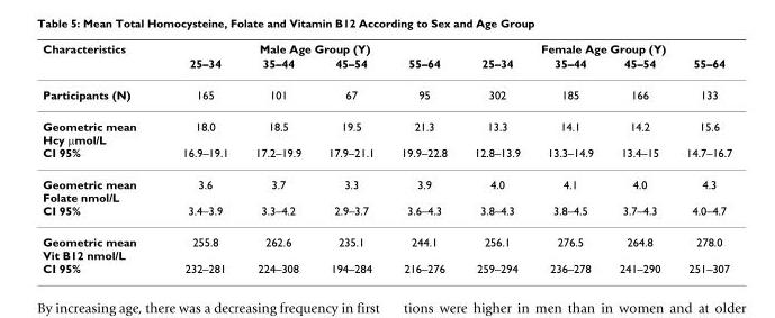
<table><thead><tr><td rowspan="2">Characteristics</td><td colspan="4">Male Age Group (Y)</td><td colspan="4">Female Age Group (Y)</td></tr><tr><td>25–34</td><td>35–44</td><td>45–54</td><td>55–64</td><td>25–34</td><td>35–44</td><td>45–54</td><td>55–64</td></tr></thead><tbody><tr><td>Participants (N)</td><td>165</td><td>101</td><td>67</td><td>95</td><td>302</td><td>185</td><td>166</td><td>133</td></tr><tr><td>Geometric mean Hcy µmol/L CI 95%</td><td>18.0 16.9–19.1</td><td>18.5 17.2–19.9</td><td>19.5 17.9–21.1</td><td>21.3 19.9–22.8</td><td>13.3 12.8–13.9</td><td>14.1 13.3–14.9</td><td>14.2 13.4–15</td><td>15.6 14.7–16.7</td></tr><tr><td>Geometric mean Folate nmol/L CI 95%</td><td>3.6 3.4–3.9</td><td>3.7 3.3–4.2</td><td>3.3 2.9–3.7</td><td>3.9 3.6–4.3</td><td>4.0 3.8–4.3</td><td>4.1 3.8–4.5</td><td>4.0 3.7–4.3</td><td>4.3 4.0–4.7</td></tr><tr><td>Geometric mean Vit B12 nmol/L CI 95%</td><td>255.8 232–281</td><td>262.6 224–308</td><td>235.1 194–284</td><td>244.1 216–276</td><td>256.1 259–294</td><td>276.5 236–278</td><td>264.8 241–290</td><td>278.0 251–307</td></tr></tbody></table>